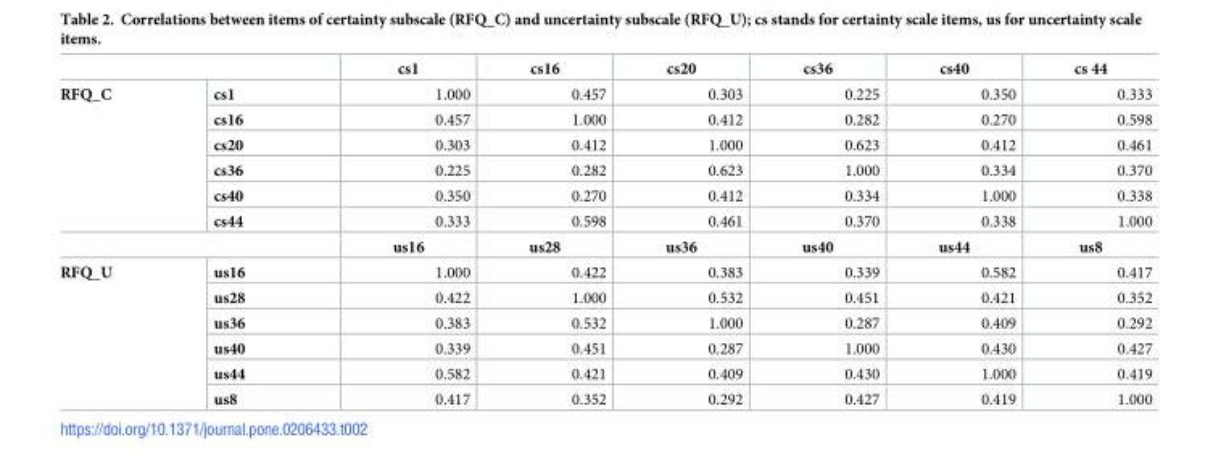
<table><thead><tr><td></td><td></td><td>cs1</td><td>cs16</td><td>cs20</td><td>cs36</td><td>cs40</td><td>cs 44</td></tr></thead><tbody><tr><td rowspan="6">RFQ_C</td><td>cs1</td><td>1.000</td><td>0.457</td><td>0.303</td><td>0.225</td><td>0.350</td><td>0.333</td></tr><tr><td>cs16</td><td>0.457</td><td>1.000</td><td>0.412</td><td>0.282</td><td>0.270</td><td>0.598</td></tr><tr><td>cs20</td><td>0.303</td><td>0.412</td><td>1.000</td><td>0.623</td><td>0.412</td><td>0.461</td></tr><tr><td>cs36</td><td>0.225</td><td>0.282</td><td>0.623</td><td>1.000</td><td>0.334</td><td>0.370</td></tr><tr><td>cs40</td><td>0.350</td><td>0.270</td><td>0.412</td><td>0.334</td><td>1.000</td><td>0.338</td></tr><tr><td>cs44</td><td>0.333</td><td>0.598</td><td>0.461</td><td>0.370</td><td>0.338</td><td>1.000</td></tr><tr><td colspan="2"></td><td>us16</td><td>us28</td><td>us36</td><td>us40</td><td>us44</td><td>us8</td></tr><tr><td rowspan="6">RFQ_U</td><td>us16</td><td>1.000</td><td>0.422</td><td>0.383</td><td>0.339</td><td>0.582</td><td>0.417</td></tr><tr><td>us28</td><td>0.422</td><td>1.000</td><td>0.532</td><td>0.451</td><td>0.421</td><td>0.352</td></tr><tr><td>us36</td><td>0.383</td><td>0.532</td><td>1.000</td><td>0.287</td><td>0.409</td><td>0.292</td></tr><tr><td>us40</td><td>0.339</td><td>0.451</td><td>0.287</td><td>1.000</td><td>0.430</td><td>0.427</td></tr><tr><td>us44</td><td>0.582</td><td>0.421</td><td>0.409</td><td>0.430</td><td>1.000</td><td>0.419</td></tr><tr><td>us8</td><td>0.417</td><td>0.352</td><td>0.292</td><td>0.427</td><td>0.419</td><td>1.000</td></tr></tbody></table>